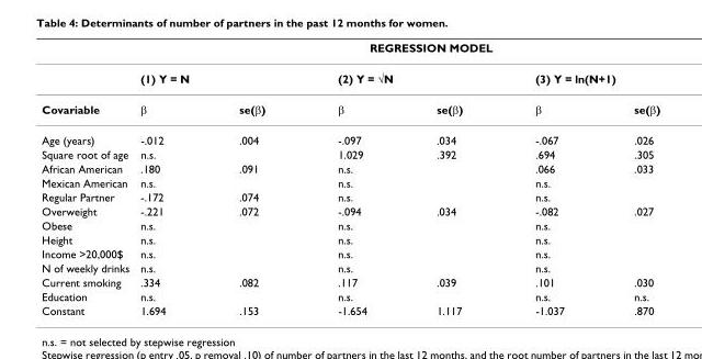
<table><thead><tr><td rowspan="3">Covariable</td><td colspan="6">REGRESSION MODEL</td></tr><tr><td colspan="2">(1) Y = N</td><td colspan="2">(2) Y = √N</td><td colspan="2">(3) Y = ln(N+1)</td></tr><tr><td>β</td><td>se(β)</td><td>β</td><td>se(β)</td><td>β</td><td>se(β)</td></tr></thead><tbody><tr><td>Age (years)</td><td>-.012</td><td>.004</td><td>-.097</td><td>.034</td><td>-.067</td><td>.026</td></tr><tr><td>Square root of age</td><td>n.s.</td><td></td><td>1.029</td><td>.392</td><td>.694</td><td>.305</td></tr><tr><td>African American</td><td>.180</td><td>.091</td><td>n.s.</td><td></td><td>.066</td><td>.033</td></tr><tr><td>Mexican American</td><td>n.s.</td><td></td><td>n.s.</td><td></td><td>n.s.</td><td></td></tr><tr><td>Regular Partner</td><td>-.172</td><td>.074</td><td>n.s.</td><td></td><td>n.s.</td><td></td></tr><tr><td>Overweight</td><td>-.221</td><td>.072</td><td>-.094</td><td>.034</td><td>-.082</td><td>.027</td></tr><tr><td>Obese</td><td>n.s.</td><td></td><td>n.s.</td><td></td><td>n.s.</td><td></td></tr><tr><td>Height</td><td>n.s.</td><td></td><td>n.s.</td><td></td><td>n.s.</td><td></td></tr><tr><td>Income &gt;20,000$</td><td>n.s.</td><td></td><td>n.s.</td><td></td><td>n.s.</td><td></td></tr><tr><td>N of weekly drinks</td><td>n.s.</td><td></td><td>n.s.</td><td></td><td>n.s.</td><td></td></tr><tr><td>Current smoking</td><td>.334</td><td>.082</td><td>.117</td><td>.039</td><td>.101</td><td>.030</td></tr><tr><td>Education</td><td>n.s.</td><td></td><td>n.s.</td><td></td><td>n.s.</td><td>n.s.</td></tr><tr><td>Constant</td><td>1.694</td><td>.153</td><td>-1.654</td><td>1.117</td><td>-1.037</td><td>.870</td></tr></tbody></table>